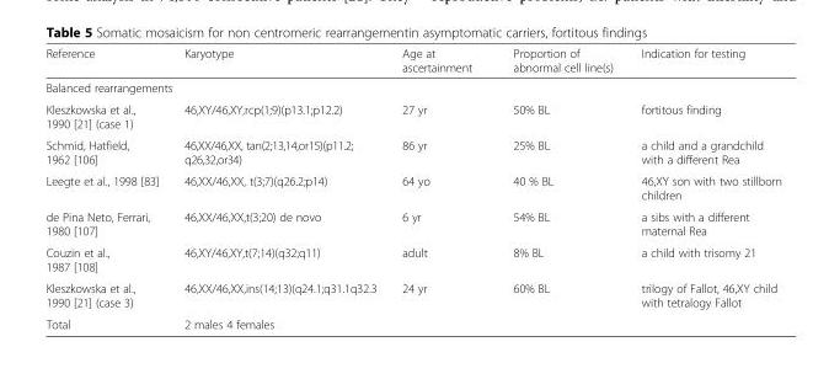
<table><thead><tr><td>Reference</td><td>Karyotype</td><td>Age at ascertainment</td><td>Proportion of abnormal cell line(s)</td><td>Indication for testing</td></tr></thead><tbody><tr><td colspan="5">Balanced rearrangements</td></tr><tr><td>Kleszkowska et al., 1990 [21] (case 1)</td><td>46,XY/46,XY,rcp(1;9)(p13.1;p12.2)</td><td>27 yr</td><td>50% BL</td><td>fortitous finding</td></tr><tr><td>Schmid, Hatfield, 1962 [106]</td><td>46,XX/46,XX, tan(2;13,14,or15)(p11.2; q26,32,or34)</td><td>86 yr</td><td>25% BL</td><td>a child and a grandchild with a different Rea</td></tr><tr><td>Leegte et al., 1998 [83]</td><td>46,XX/46,XX, t(3;7)(q26.2;p14)</td><td>64 yo</td><td>40 % BL</td><td>46,XY son with two stillborn children</td></tr><tr><td>de Pina Neto, Ferrari, 1980 [107]</td><td>46,XX/46,XX,t(3;20) de novo</td><td>6 yr</td><td>54% BL</td><td>a sibs with a different maternal Rea</td></tr><tr><td>Couzin et al., 1987 [108]</td><td>46,XY/46,XY,t(7;14)(q32;q11)</td><td>adult</td><td>8% BL</td><td>a child with trisomy 21</td></tr><tr><td>Kleszkowska et al., 1990 [21] (case 3)</td><td>46,XX/46,XX,ins(14;13)(q24.1;q31.1q32.3</td><td>24 yr</td><td>60% BL</td><td>trilogy of Fallot, 46,XY child with tetralogy Fallot</td></tr><tr><td>Total</td><td>2 males 4 females</td><td></td><td></td><td></td></tr></tbody></table>